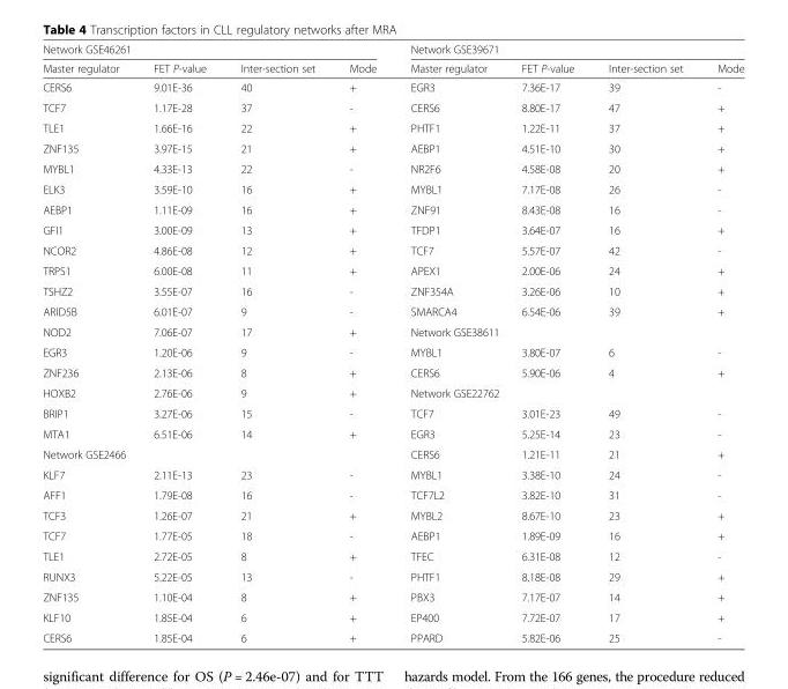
<table><thead><tr><td colspan="4">Network GSE46261</td><td colspan="4">Network GSE39671</td></tr><tr><td>Master regulator</td><td>FET P-value</td><td>Inter-section set</td><td>Mode</td><td>Master regulator</td><td>FET P-value</td><td>Inter-section set</td><td>Mode</td></tr></thead><tbody><tr><td>CERS6</td><td>9.01E-36</td><td>40</td><td>+</td><td>EGR3</td><td>7.36E-17</td><td>39</td><td>-</td></tr><tr><td>TCF7</td><td>1.17E-28</td><td>37</td><td>-</td><td>CERS6</td><td>8.80E-17</td><td>47</td><td>+</td></tr><tr><td>TLE1</td><td>1.66E-16</td><td>22</td><td>+</td><td>PHTF1</td><td>1.22E-11</td><td>37</td><td>+</td></tr><tr><td>ZNF135</td><td>3.97E-15</td><td>21</td><td>+</td><td>AEBP1</td><td>4.51E-10</td><td>30</td><td>+</td></tr><tr><td>MYBL1</td><td>4.33E-13</td><td>22</td><td>-</td><td>NR2F6</td><td>4.58E-08</td><td>20</td><td>+</td></tr><tr><td>ELK3</td><td>3.59E-10</td><td>16</td><td>+</td><td>MYBL1</td><td>7.17E-08</td><td>26</td><td>-</td></tr><tr><td>AEBP1</td><td>1.11E-09</td><td>16</td><td>+</td><td>ZNF91</td><td>8.43E-08</td><td>16</td><td>-</td></tr><tr><td>GFI1</td><td>3.00E-09</td><td>13</td><td>+</td><td>TFDP1</td><td>3.64E-07</td><td>16</td><td>+</td></tr><tr><td>NCOR2</td><td>4.86E-08</td><td>12</td><td>+</td><td>TCF7</td><td>5.57E-07</td><td>42</td><td>-</td></tr><tr><td>TRPS1</td><td>6.00E-08</td><td>11</td><td>+</td><td>APEX1</td><td>2.00E-06</td><td>24</td><td>+</td></tr><tr><td>TSHZ2</td><td>3.55E-07</td><td>16</td><td>-</td><td>ZNF354A</td><td>3.26E-06</td><td>10</td><td>+</td></tr><tr><td>ARID5B</td><td>6.01E-07</td><td>9</td><td>-</td><td>SMARCA4</td><td>6.54E-06</td><td>39</td><td>+</td></tr><tr><td>NOD2</td><td>7.06E-07</td><td>17</td><td>+</td><td colspan="4">Network GSE38611</td></tr><tr><td>EGR3</td><td>1.20E-06</td><td>9</td><td>-</td><td>MYBL1</td><td>3.80E-07</td><td>6</td><td>-</td></tr><tr><td>ZNF236</td><td>2.13E-06</td><td>8</td><td>+</td><td>CERS6</td><td>5.90E-06</td><td>4</td><td>+</td></tr><tr><td>HOXB2</td><td>2.76E-06</td><td>9</td><td>+</td><td colspan="4">Network GSE22762</td></tr><tr><td>BRIP1</td><td>3.27E-06</td><td>15</td><td>-</td><td>TCF7</td><td>3.01E-23</td><td>49</td><td>-</td></tr><tr><td>MTA1</td><td>6.51E-06</td><td>14</td><td>+</td><td>EGR3</td><td>5.25E-14</td><td>23</td><td>-</td></tr><tr><td colspan="4">Network GSE2466</td><td>CERS6</td><td>1.21E-11</td><td>21</td><td>+</td></tr><tr><td>KLF7</td><td>2.11E-13</td><td>23</td><td>-</td><td>MYBL1</td><td>3.38E-10</td><td>24</td><td>-</td></tr><tr><td>AFF1</td><td>1.79E-08</td><td>16</td><td>-</td><td>TCF7L2</td><td>3.82E-10</td><td>31</td><td>-</td></tr><tr><td>TCF3</td><td>1.26E-07</td><td>21</td><td>+</td><td>MYBL2</td><td>8.67E-10</td><td>23</td><td>+</td></tr><tr><td>TCF7</td><td>1.77E-05</td><td>18</td><td>-</td><td>AEBP1</td><td>1.89E-09</td><td>16</td><td>+</td></tr><tr><td>TLE1</td><td>2.72E-05</td><td>8</td><td>+</td><td>TFEC</td><td>6.31E-08</td><td>12</td><td>-</td></tr><tr><td>RUNX3</td><td>5.22E-05</td><td>13</td><td>-</td><td>PHTF1</td><td>8.18E-08</td><td>29</td><td>+</td></tr><tr><td>ZNF135</td><td>1.10E-04</td><td>8</td><td>+</td><td>PBX3</td><td>7.17E-07</td><td>14</td><td>+</td></tr><tr><td>KLF10</td><td>1.85E-04</td><td>6</td><td>+</td><td>EP400</td><td>7.72E-07</td><td>17</td><td>+</td></tr><tr><td>CERS6</td><td>1.85E-04</td><td>6</td><td>+</td><td>PPARD</td><td>5.82E-06</td><td>25</td><td>-</td></tr></tbody></table>